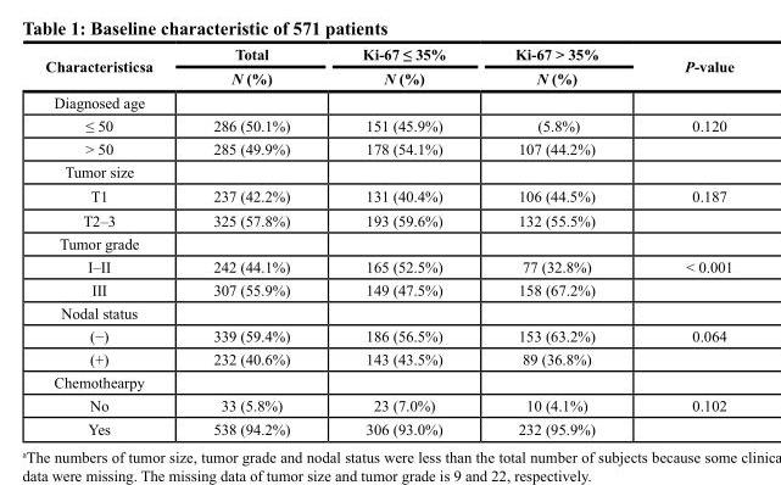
<table><thead><tr><td rowspan="2">characteristicsa</td><td rowspan="2">Total N (%)</td><td rowspan="2">Ki-67 ≤ 35% N (%)</td><td rowspan="2">Ki-67 &gt; 35% N (%)</td><td rowspan="2">P-value</td></tr><tr></tr></thead><tbody><tr><td colspan="5">Diagnosed age</td></tr><tr><td>≤ 50</td><td>286 (50.1%)</td><td>151 (45.9%)</td><td>(5.8%)</td><td>0.120</td></tr><tr><td>&gt; 50</td><td>285 (49.9%)</td><td>178 (54.1%)</td><td>107 (44.2%)</td><td></td></tr><tr><td colspan="5">Tumor size</td></tr><tr><td>T1</td><td>237 (42.2%)</td><td>131 (40.4%)</td><td>106 (44.5%)</td><td>0.187</td></tr><tr><td>T2–3</td><td>325 (57.8%)</td><td>193 (59.6%)</td><td>132 (55.5%)</td><td></td></tr><tr><td colspan="5">Tumor grade</td></tr><tr><td>I–II</td><td>242 (44.1%)</td><td>165 (52.5%)</td><td>77 (32.8%)</td><td>&lt; 0.001</td></tr><tr><td>III</td><td>307 (55.9%)</td><td>149 (47.5%)</td><td>158 (67.2%)</td><td></td></tr><tr><td colspan="5">Nodal status</td></tr><tr><td>(−)</td><td>339 (59.4%)</td><td>186 (56.5%)</td><td>153 (63.2%)</td><td>0.064</td></tr><tr><td>(+)</td><td>232 (40.6%)</td><td>143 (43.5%)</td><td>89 (36.8%)</td><td></td></tr><tr><td colspan="5">Chemothearpy</td></tr><tr><td>No</td><td>33 (5.8%)</td><td>23 (7.0%)</td><td>10 (4.1%)</td><td>0.102</td></tr><tr><td>Yes</td><td>538 (94.2%)</td><td>306 (93.0%)</td><td>232 (95.9%)</td><td></td></tr></tbody></table>